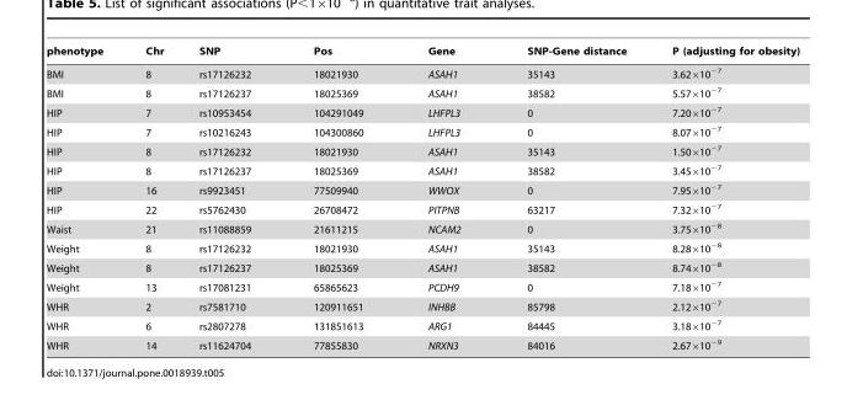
<table><thead><tr><td>phenotype</td><td>Chr</td><td>SNP</td><td>Pos</td><td>Gene</td><td>SNP-Gene distance</td><td>P (adjusting for obesity)</td></tr></thead><tbody><tr><td>BMI</td><td>8</td><td>rs17126232</td><td>18021930</td><td>ASAH1</td><td>35143</td><td>3.62×10<sup>−7</sup></td></tr><tr><td>BMI</td><td>8</td><td>rs17126237</td><td>18025369</td><td>ASAH1</td><td>38582</td><td>5.57×10<sup>−7</sup></td></tr><tr><td>HIP</td><td>7</td><td>rs10953454</td><td>104291049</td><td>LHFPL3</td><td>0</td><td>7.20×10<sup>−7</sup></td></tr><tr><td>HIP</td><td>7</td><td>rs10216243</td><td>104300860</td><td>LHFPL3</td><td>0</td><td>8.07×10<sup>−7</sup></td></tr><tr><td>HIP</td><td>8</td><td>rs17126232</td><td>18021930</td><td>ASAH1</td><td>35143</td><td>1.50×10<sup>−7</sup></td></tr><tr><td>HIP</td><td>8</td><td>rs17126237</td><td>18025369</td><td>ASAH1</td><td>38582</td><td>3.45×10<sup>−7</sup></td></tr><tr><td>HIP</td><td>16</td><td>rs9923451</td><td>77509940</td><td>WWOX</td><td>0</td><td>7.95×10<sup>−7</sup></td></tr><tr><td>HIP</td><td>22</td><td>rs5762430</td><td>26708472</td><td>PITPNB</td><td>63217</td><td>7.32×10<sup>−7</sup></td></tr><tr><td>Waist</td><td>21</td><td>rs11088859</td><td>21611215</td><td>NCAM2</td><td>0</td><td>3.75×10<sup>−8</sup></td></tr><tr><td>Weight</td><td>8</td><td>rs17126232</td><td>18021930</td><td>ASAH1</td><td>35143</td><td>8.28×10<sup>−8</sup></td></tr><tr><td>Weight</td><td>8</td><td>rs17126237</td><td>18025369</td><td>ASAH1</td><td>38582</td><td>8.74×10<sup>−8</sup></td></tr><tr><td>Weight</td><td>13</td><td>rs17081231</td><td>65865623</td><td>PCDH9</td><td>0</td><td>7.18×10<sup>−7</sup></td></tr><tr><td>WHR</td><td>2</td><td>rs7581710</td><td>120911651</td><td>INHBB</td><td>85798</td><td>2.12×10<sup>−7</sup></td></tr><tr><td>WHR</td><td>6</td><td>rs2807278</td><td>131851613</td><td>ARG1</td><td>84445</td><td>3.18×10<sup>−7</sup></td></tr><tr><td>WHR</td><td>14</td><td>rs11624704</td><td>77855830</td><td>NRXN3</td><td>84016</td><td>2.67×10<sup>−9</sup></td></tr></tbody></table>